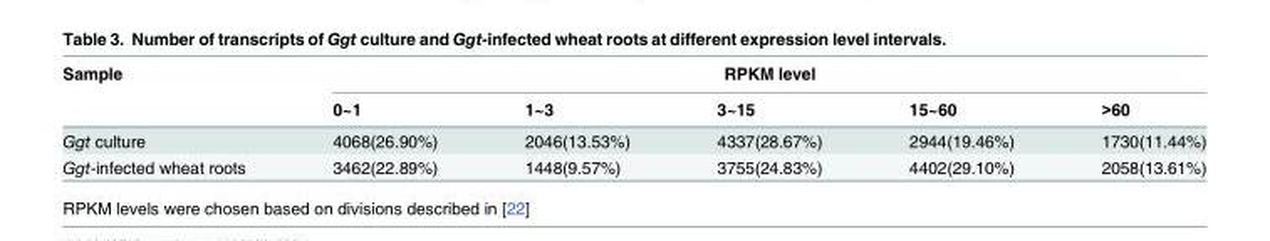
<table><thead><tr><td rowspan="2">Sample</td><td colspan="5">RPKM level</td></tr><tr><td>0~1</td><td>1~3</td><td>3~15</td><td>15~60</td><td>&gt;60</td></tr></thead><tbody><tr><td>Ggt culture</td><td>4068(26.90%)</td><td>2046(13.53%)</td><td>4337(28.67%)</td><td>2944(19.46%)</td><td>1730(11.44%)</td></tr><tr><td>Ggt-infected wheat roots</td><td>3462(22.89%)</td><td>1448(9.57%)</td><td>3755(24.83%)</td><td>4402(29.10%)</td><td>2058(13.61%)</td></tr></tbody></table>